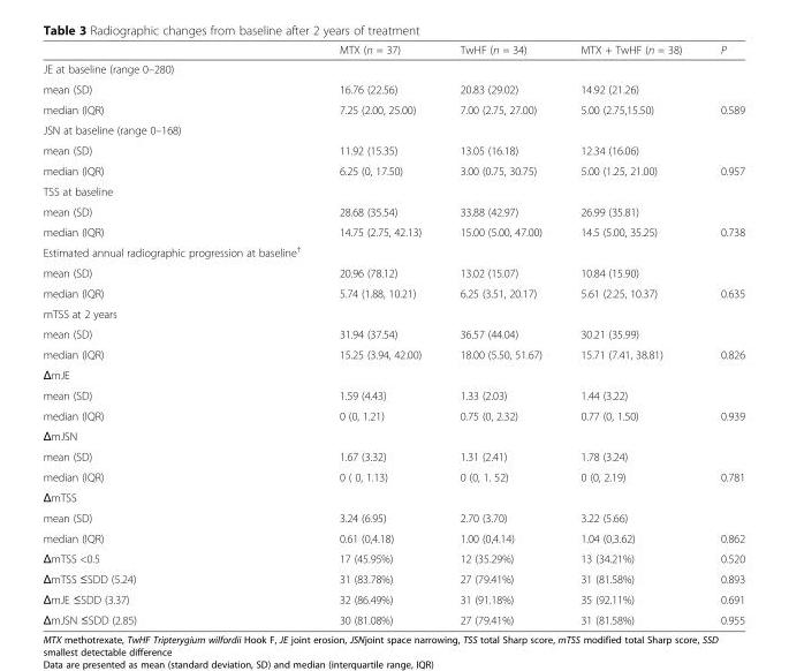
<table><thead><tr><td></td><td>MTX (n = 37)</td><td>TwHF (n = 34)</td><td>MTX + TwHF (n = 38)</td><td>P</td></tr></thead><tbody><tr><td colspan="5">JE at baseline (range 0–280)</td></tr><tr><td>mean (SD)</td><td>16.76 (22.56)</td><td>20.83 (29.02)</td><td>14.92 (21.26)</td><td></td></tr><tr><td>median (IQR)</td><td>7.25 (2.00, 25.00)</td><td>7.00 (2.75, 27.00)</td><td>5.00 (2.75,15.50)</td><td>0.589</td></tr><tr><td colspan="5">JSN at baseline (range 0–168)</td></tr><tr><td>mean (SD)</td><td>11.92 (15.35)</td><td>13.05 (16.18)</td><td>12.34 (16.06)</td><td></td></tr><tr><td>median (IQR)</td><td>6.25 (0, 17.50)</td><td>3.00 (0.75, 30.75)</td><td>5.00 (1.25, 21.00)</td><td>0.957</td></tr><tr><td colspan="5">TSS at baseline</td></tr><tr><td>mean (SD)</td><td>28.68 (35.54)</td><td>33.88 (42.97)</td><td>26.99 (35.81)</td><td></td></tr><tr><td>median (IQR)</td><td>14.75 (2.75, 42.13)</td><td>15.00 (5.00, 47.00)</td><td>14.5 (5.00, 35.25)</td><td>0.738</td></tr><tr><td colspan="5">Estimated annual radiographic progression at baseline<sup>†</sup></td></tr><tr><td>mean (SD)</td><td>20.96 (78.12)</td><td>13.02 (15.07)</td><td>10.84 (15.90)</td><td></td></tr><tr><td>median (IQR)</td><td>5.74 (1.88, 10.21)</td><td>6.25 (3.51, 20.17)</td><td>5.61 (2.25, 10.37)</td><td>0.635</td></tr><tr><td colspan="5">mTSS at 2 years</td></tr><tr><td>mean (SD)</td><td>31.94 (37.54)</td><td>36.57 (44.04)</td><td>30.21 (35.99)</td><td></td></tr><tr><td>median (IQR)</td><td>15.25 (3.94, 42.00)</td><td>18.00 (5.50, 51.67)</td><td>15.71 (7.41, 38.81)</td><td>0.826</td></tr><tr><td colspan="5">ΔmJE</td></tr><tr><td>mean (SD)</td><td>1.59 (4.43)</td><td>1.33 (2.03)</td><td>1.44 (3.22)</td><td></td></tr><tr><td>median (IQR)</td><td>0 (0, 1.21)</td><td>0.75 (0, 2.32)</td><td>0.77 (0, 1.50)</td><td>0.939</td></tr><tr><td colspan="5">ΔmJSN</td></tr><tr><td>mean (SD)</td><td>1.67 (3.32)</td><td>1.31 (2.41)</td><td>1.78 (3.24)</td><td></td></tr><tr><td>median (IQR)</td><td>0 ( 0, 1.13)</td><td>0 (0, 1. 52)</td><td>0 (0, 2.19)</td><td>0.781</td></tr><tr><td colspan="5">ΔmTSS</td></tr><tr><td>mean (SD)</td><td>3.24 (6.95)</td><td>2.70 (3.70)</td><td>3.22 (5.66)</td><td></td></tr><tr><td>median (IQR)</td><td>0.61 (0,4.18)</td><td>1.00 (0,4.14)</td><td>1.04 (0,3.62)</td><td>0.862</td></tr><tr><td>ΔmTSS &lt;0.5</td><td>17 (45.95%)</td><td>12 (35.29%)</td><td>13 (34.21%)</td><td>0.520</td></tr><tr><td>ΔmTSS ≤SDD (5.24)</td><td>31 (83.78%)</td><td>27 (79.41%)</td><td>31 (81.58%)</td><td>0.893</td></tr><tr><td>ΔmJE ≤SDD (3.37)</td><td>32 (86.49%)</td><td>31 (91.18%)</td><td>35 (92.11%)</td><td>0.691</td></tr><tr><td>ΔmJSN ≤SDD (2.85)</td><td>30 (81.08%)</td><td>27 (79.41%)</td><td>31 (81.58%)</td><td>0.955</td></tr></tbody></table>